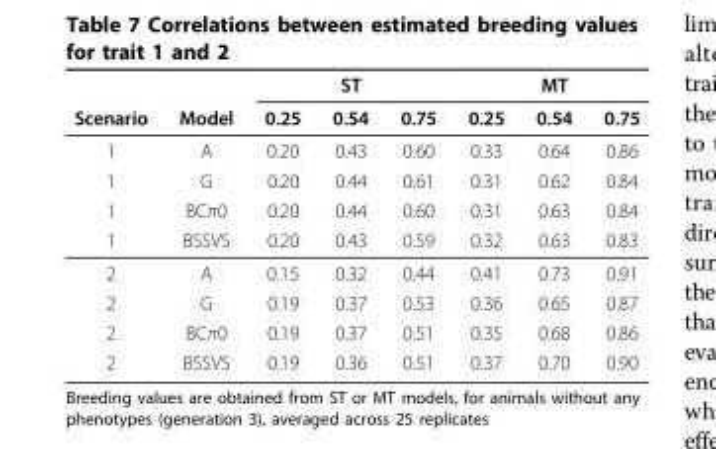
<table><thead><tr><td rowspan="2">Scenario</td><td rowspan="2">Model</td><td rowspan="2">0.25</td><td rowspan="2">ST 0.54</td><td rowspan="2">0.75</td><td rowspan="2">0.25</td><td rowspan="2">MT 0.54</td><td rowspan="2">0.75</td></tr><tr></tr></thead><tbody><tr><td>1</td><td>A</td><td>0.20</td><td>0.43</td><td>0.60</td><td>0.33</td><td>0.64</td><td>0.86</td></tr><tr><td>1</td><td>G</td><td>0.20</td><td>0.44</td><td>0.61</td><td>0.31</td><td>0.62</td><td>0.84</td></tr><tr><td>1</td><td>BCπ0</td><td>0.20</td><td>0.44</td><td>0.60</td><td>0.31</td><td>0.63</td><td>0.84</td></tr><tr><td>1</td><td>BSSVS</td><td>0.20</td><td>0.43</td><td>0.59</td><td>0.32</td><td>0.63</td><td>0.83</td></tr><tr><td>2</td><td>A</td><td>0.15</td><td>0.32</td><td>0.44</td><td>0.41</td><td>0.73</td><td>0.91</td></tr><tr><td>2</td><td>G</td><td>0.19</td><td>0.37</td><td>0.53</td><td>0.36</td><td>0.65</td><td>0.87</td></tr><tr><td>2</td><td>BCπ0</td><td>0.19</td><td>0.37</td><td>0.51</td><td>0.35</td><td>0.68</td><td>0.86</td></tr><tr><td>2</td><td>BSSVS</td><td>0.19</td><td>0.36</td><td>0.51</td><td>0.37</td><td>0.70</td><td>0.90</td></tr></tbody></table>